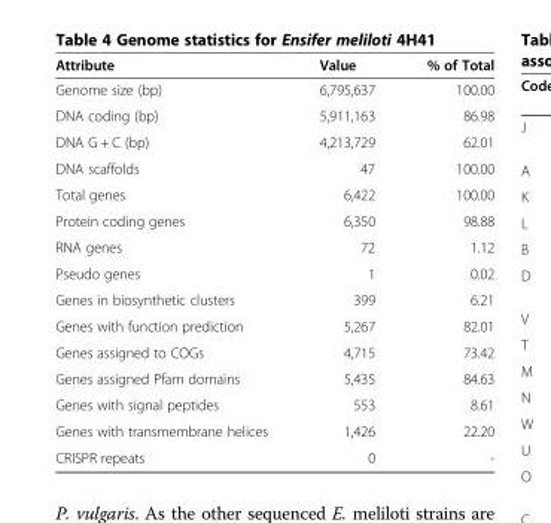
<table><thead><tr><td>Attribute</td><td>Value</td><td>% of Total</td></tr></thead><tbody><tr><td>Genome size (bp)</td><td>6,795,637</td><td>100.00</td></tr><tr><td>DNA coding (bp)</td><td>5,911,163</td><td>86.98</td></tr><tr><td>DNA G + C (bp)</td><td>4,213,729</td><td>62.01</td></tr><tr><td>DNA scaffolds</td><td>47</td><td>100.00</td></tr><tr><td>Total genes</td><td>6,422</td><td>100.00</td></tr><tr><td>Protein coding genes</td><td>6,350</td><td>98.88</td></tr><tr><td>RNA genes</td><td>72</td><td>1.12</td></tr><tr><td>Pseudo genes</td><td>1</td><td>0.02</td></tr><tr><td>Genes in biosynthetic clusters</td><td>399</td><td>6.21</td></tr><tr><td>Genes with function prediction</td><td>5,267</td><td>82.01</td></tr><tr><td>Genes assigned to COGs</td><td>4,715</td><td>73.42</td></tr><tr><td>Genes assigned Pfam domains</td><td>5,435</td><td>84.63</td></tr><tr><td>Genes with signal peptides</td><td>553</td><td>8.61</td></tr><tr><td>Genes with transmembrane helices</td><td>1,426</td><td>22.20</td></tr><tr><td>CRISPR repeats</td><td>0</td><td>-</td></tr></tbody></table>